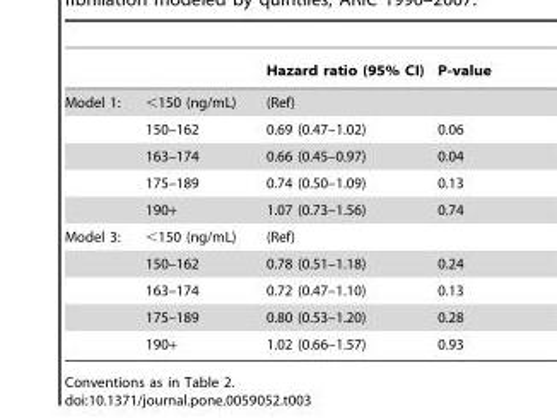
<table><thead><tr><td></td><td></td><td>Hazard ratio (95% CI)</td><td>P-value</td></tr></thead><tbody><tr><td rowspan="5">Model 1:</td><td>&lt;150 (ng/mL)</td><td>(Ref)</td><td></td></tr><tr><td>150–162</td><td>0.69 (0.47–1.02)</td><td>0.06</td></tr><tr><td>163–174</td><td>0.66 (0.45–0.97)</td><td>0.04</td></tr><tr><td>175–189</td><td>0.74 (0.50–1.09)</td><td>0.13</td></tr><tr><td>190+</td><td>1.07 (0.73–1.56)</td><td>0.74</td></tr><tr><td rowspan="5">Model 3:</td><td>&lt;150 (ng/mL)</td><td>(Ref)</td><td></td></tr><tr><td>150–162</td><td>0.78 (0.51–1.18)</td><td>0.24</td></tr><tr><td>163–174</td><td>0.72 (0.47–1.10)</td><td>0.13</td></tr><tr><td>175–189</td><td>0.80 (0.53–1.20)</td><td>0.28</td></tr><tr><td>190+</td><td>1.02 (0.66–1.57)</td><td>0.93</td></tr></tbody></table>